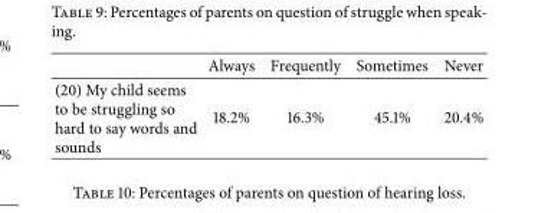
<table><thead><tr><td></td><td>Always</td><td>Frequently</td><td>Sometimes</td><td>Never</td></tr></thead><tbody><tr><td>(20) My child seems to be struggling so hard to say words and sounds</td><td>18.2%</td><td>16.3%</td><td>45.1%</td><td>20.4%</td></tr></tbody></table>